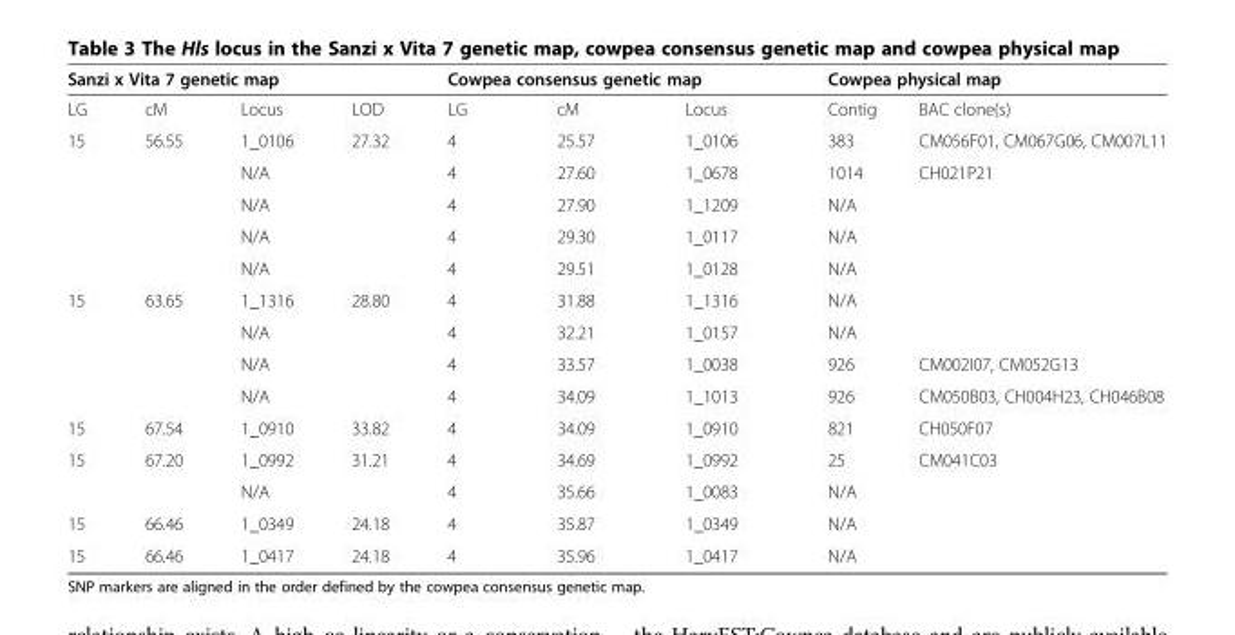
<table><thead><tr><td colspan="4">Sanzi x Vita 7 genetic map</td><td colspan="3">Cowpea consensus genetic map</td><td colspan="2">Cowpea physical map</td></tr><tr><td>LG</td><td>cM</td><td>Locus</td><td>LOD</td><td>LG</td><td>cM</td><td>Locus</td><td>Contig</td><td>BAC clone(s)</td></tr></thead><tbody><tr><td rowspan="5">15</td><td>56.55</td><td>1_0106</td><td>27.32</td><td>4</td><td>25.57</td><td>1_0106</td><td>383</td><td>CM056F01, CM067G06, CM007L11</td></tr><tr><td></td><td>N/A</td><td></td><td>4</td><td>27.60</td><td>1_0678</td><td>1014</td><td>CH021P21</td></tr><tr><td></td><td>N/A</td><td></td><td>4</td><td>27.90</td><td>1_1209</td><td>N/A</td><td></td></tr><tr><td></td><td>N/A</td><td></td><td>4</td><td>29.30</td><td>1_0117</td><td>N/A</td><td></td></tr><tr><td></td><td>N/A</td><td></td><td>4</td><td>29.51</td><td>1_0128</td><td>N/A</td><td></td></tr><tr><td rowspan="4">15</td><td>63.65</td><td>1_1316</td><td>28.80</td><td>4</td><td>31.88</td><td>1_1316</td><td>N/A</td><td></td></tr><tr><td></td><td>N/A</td><td></td><td>4</td><td>32.21</td><td>1_0157</td><td>N/A</td><td></td></tr><tr><td></td><td>N/A</td><td></td><td>4</td><td>33.57</td><td>1_0038</td><td>926</td><td>CM002I07, CM052G13</td></tr><tr><td></td><td>N/A</td><td></td><td>4</td><td>34.09</td><td>1_1013</td><td>926</td><td>CM050B03, CH004H23, CH046B08</td></tr><tr><td>15</td><td>67.54</td><td>1_0910</td><td>33.82</td><td>4</td><td>34.09</td><td>1_0910</td><td>821</td><td>CH050F07</td></tr><tr><td rowspan="2">15</td><td>67.20</td><td>1_0992</td><td>31.21</td><td>4</td><td>34.69</td><td>1_0992</td><td>25</td><td>CM041C03</td></tr><tr><td></td><td>N/A</td><td></td><td>4</td><td>35.66</td><td>1_0083</td><td>N/A</td><td></td></tr><tr><td>15</td><td>66.46</td><td>1_0349</td><td>24.18</td><td>4</td><td>35.87</td><td>1_0349</td><td>N/A</td><td></td></tr><tr><td>15</td><td>66.46</td><td>1_0417</td><td>24.18</td><td>4</td><td>35.96</td><td>1_0417</td><td>N/A</td><td></td></tr></tbody></table>